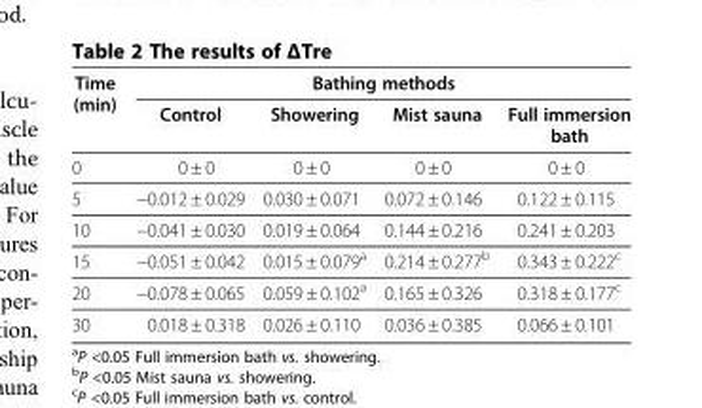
<table><thead><tr><td rowspan="2">Time (min)</td><td colspan="4">Bathing methods</td></tr><tr><td>Control</td><td>Showering</td><td>Mist sauna</td><td>Full immersion bath</td></tr></thead><tbody><tr><td>0</td><td>0 ± 0</td><td>0 ± 0</td><td>0 ± 0</td><td>0 ± 0</td></tr><tr><td>5</td><td>−0.012 ± 0.029</td><td>0.030 ± 0.071</td><td>0.072 ± 0.146</td><td>0.122 ± 0.115</td></tr><tr><td>10</td><td>−0.041 ± 0.030</td><td>0.019 ± 0.064</td><td>0.144 ± 0.216</td><td>0.241 ± 0.203</td></tr><tr><td>15</td><td>−0.051 ± 0.042</td><td>0.015 ± 0.079<sup>a</sup></td><td>0.214 ± 0.277<sup>b</sup></td><td>0.343 ± 0.222<sup>c</sup></td></tr><tr><td>20</td><td>−0.078 ± 0.065</td><td>0.059 ± 0.102<sup>a</sup></td><td>0.165 ± 0.326</td><td>0.318 ± 0.177<sup>c</sup></td></tr><tr><td>30</td><td>0.018 ± 0.318</td><td>0.026 ± 0.110</td><td>0.036 ± 0.385</td><td>0.066 ± 0.101</td></tr></tbody></table>